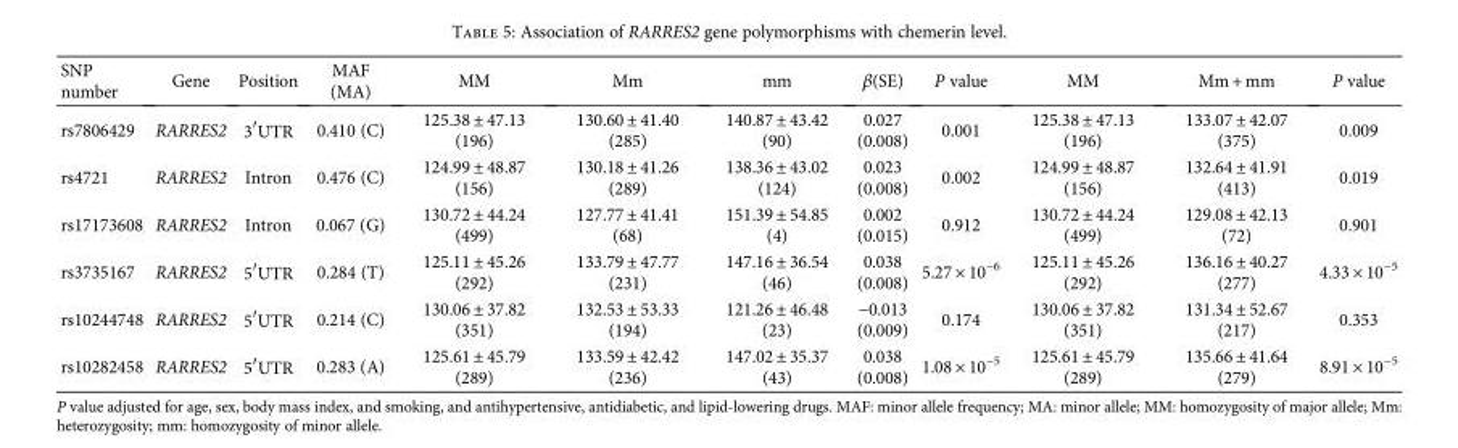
<table><thead><tr><td>SNP number</td><td>Gene</td><td>Position</td><td>MAF (MA)</td><td>MM</td><td>Mm</td><td>mm</td><td>β(SE)</td><td>P value</td><td>MM</td><td>Mm + mm</td><td>P value</td></tr></thead><tbody><tr><td>rs7806429</td><td>RARRES2</td><td>3′UTR</td><td>0.410 (C)</td><td>125.38 ± 47.13 (196)</td><td>130.60 ± 41.40 (285)</td><td>140.87 ± 43.42 (90)</td><td>0.027 (0.008)</td><td>0.001</td><td>125.38 ± 47.13 (196)</td><td>133.07 ± 42.07 (375)</td><td>0.009</td></tr><tr><td>rs4721</td><td>RARRES2</td><td>Intron</td><td>0.476 (C)</td><td>124.99 ± 48.87 (156)</td><td>130.18 ± 41.26 (289)</td><td>138.36 ± 43.02 (124)</td><td>0.023 (0.008)</td><td>0.002</td><td>124.99 ± 48.87 (156)</td><td>132.64 ± 41.91 (413)</td><td>0.019</td></tr><tr><td>rs17173608</td><td>RARRES2</td><td>Intron</td><td>0.067 (G)</td><td>130.72 ± 44.24 (499)</td><td>127.77 ± 41.41 (68)</td><td>151.39 ± 54.85 (4)</td><td>0.002 (0.015)</td><td>0.912</td><td>130.72 ± 44.24 (499)</td><td>129.08 ± 42.13 (72)</td><td>0.901</td></tr><tr><td>rs3735167</td><td>RARRES2</td><td>5′UTR</td><td>0.284 (T)</td><td>125.11 ± 45.26 (292)</td><td>133.79 ± 47.77 (231)</td><td>147.16 ± 36.54 (46)</td><td>0.038 (0.008)</td><td>5.27 × 10<sup>−6</sup></td><td>125.11 ± 45.26 (292)</td><td>136.16 ± 40.27 (277)</td><td>4.33 × 10<sup>−5</sup></td></tr><tr><td>rs10244748</td><td>RARRES2</td><td>5′UTR</td><td>0.214 (C)</td><td>130.06 ± 37.82 (351)</td><td>132.53 ± 53.33 (194)</td><td>121.26 ± 46.48 (23)</td><td>−0.013 (0.009)</td><td>0.174</td><td>130.06 ± 37.82 (351)</td><td>131.34 ± 52.67 (217)</td><td>0.353</td></tr><tr><td>rs10282458</td><td>RARRES2</td><td>5′UTR</td><td>0.283 (A)</td><td>125.61 ± 45.79 (289)</td><td>133.59 ± 42.42 (236)</td><td>147.02 ± 35.37 (43)</td><td>0.038 (0.008)</td><td>1.08 × 10<sup>−5</sup></td><td>125.61 ± 45.79 (289)</td><td>135.66 ± 41.64 (279)</td><td>8.91 × 10<sup>−5</sup></td></tr></tbody></table>